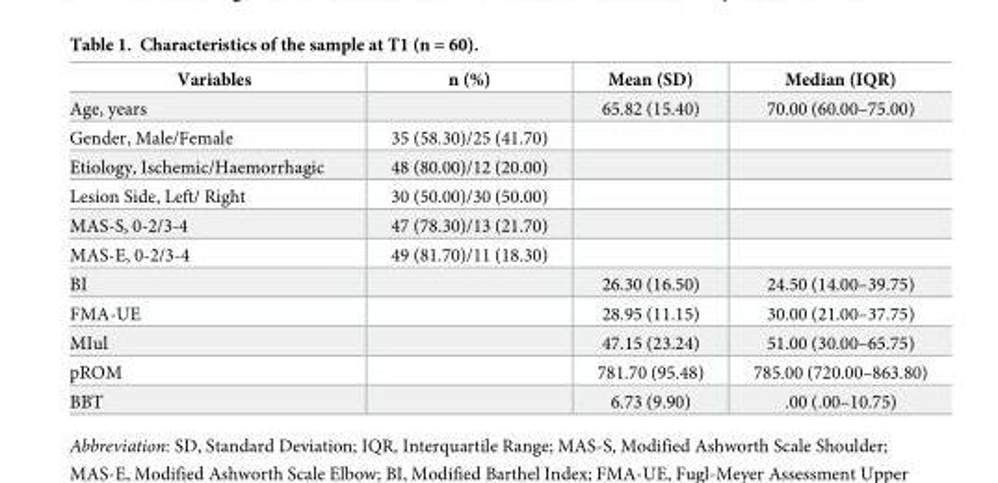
<table><thead><tr><td>Variables</td><td>n (%)</td><td>Mean (SD)</td><td>Median (IQR)</td></tr></thead><tbody><tr><td>Age, years</td><td></td><td>65.82 (15.40)</td><td>70.00 (60.00–75.00)</td></tr><tr><td>Gender, Male/Female</td><td>35 (58.30)/25 (41.70)</td><td></td><td></td></tr><tr><td>Etiology, Ischemic/Haemorrhagic</td><td>48 (80.00)/12 (20.00)</td><td></td><td></td></tr><tr><td>Lesion Side, Left/ Right</td><td>30 (50.00)/30 (50.00)</td><td></td><td></td></tr><tr><td>MAS-S, 0-2/3-4</td><td>47 (78.30)/13 (21.70)</td><td></td><td></td></tr><tr><td>MAS-E, 0-2/3-4</td><td>49 (81.70)/11 (18.30)</td><td></td><td></td></tr><tr><td>BI</td><td></td><td>26.30 (16.50)</td><td>24.50 (14.00–39.75)</td></tr><tr><td>FMA-UE</td><td></td><td>28.95 (11.15)</td><td>30.00 (21.00–37.75)</td></tr><tr><td>MIul</td><td></td><td>47.15 (23.24)</td><td>51.00 (30.00–65.75)</td></tr><tr><td>pROM</td><td></td><td>781.70 (95.48)</td><td>785.00 (720.00–863.80)</td></tr><tr><td>BBT</td><td></td><td>6.73 (9.90)</td><td>.00 (.00–10.75)</td></tr></tbody></table>